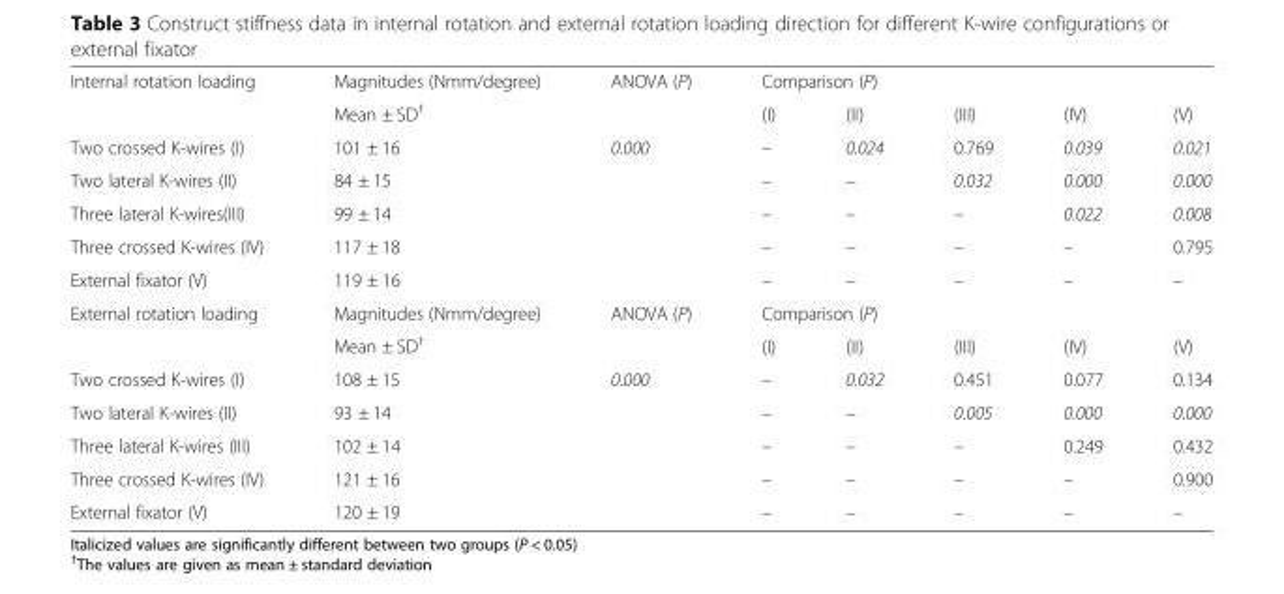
<table><tbody><tr><td rowspan="2">Internal rotation loading</td><td>Magnitudes (Nmm/degree)</td><td rowspan="2">ANOVA (P)</td><td colspan="5">Comparison (P)</td></tr><tr><td>Mean ± SD<sup>†</sup></td><td>(I)</td><td>(II)</td><td>(III)</td><td>(IV)</td><td>(V)</td></tr><tr><td>Two crossed K-wires (I)</td><td>101 ± 16</td><td rowspan="5">0.000</td><td>–</td><td>0.024</td><td>0.769</td><td>0.039</td><td>0.021</td></tr><tr><td>Two lateral K-wires (II)</td><td>84 ± 15</td><td>–</td><td>–</td><td>0.032</td><td>0.000</td><td>0.000</td></tr><tr><td>Three lateral K-wires(III)</td><td>99 ± 14</td><td>–</td><td>–</td><td>–</td><td>0.022</td><td>0.008</td></tr><tr><td>Three crossed K-wires (IV)</td><td>117 ± 18</td><td>–</td><td>–</td><td>–</td><td>–</td><td>0.795</td></tr><tr><td>External fixator (V)</td><td>119 ± 16</td><td>–</td><td>–</td><td>–</td><td>–</td><td>–</td></tr><tr><td rowspan="2">External rotation loading</td><td>Magnitudes (Nmm/degree)</td><td rowspan="2">ANOVA (P)</td><td colspan="5">Comparison (P)</td></tr><tr><td>Mean ± SD<sup>†</sup></td><td>(I)</td><td>(II)</td><td>(III)</td><td>(IV)</td><td>(V)</td></tr><tr><td>Two crossed K-wires (I)</td><td>108 ± 15</td><td rowspan="5">0.000</td><td>–</td><td>0.032</td><td>0.451</td><td>0.077</td><td>0.134</td></tr><tr><td>Two lateral K-wires (II)</td><td>93 ± 14</td><td>–</td><td>–</td><td>0.005</td><td>0.000</td><td>0.000</td></tr><tr><td>Three lateral K-wires (III)</td><td>102 ± 14</td><td>–</td><td>–</td><td>–</td><td>0.249</td><td>0.432</td></tr><tr><td>Three crossed K-wires (IV)</td><td>121 ± 16</td><td>–</td><td>–</td><td>–</td><td>–</td><td>0.900</td></tr><tr><td>External fixator (V)</td><td>120 ± 19</td><td>–</td><td>–</td><td>–</td><td>–</td><td>–</td></tr></tbody></table>